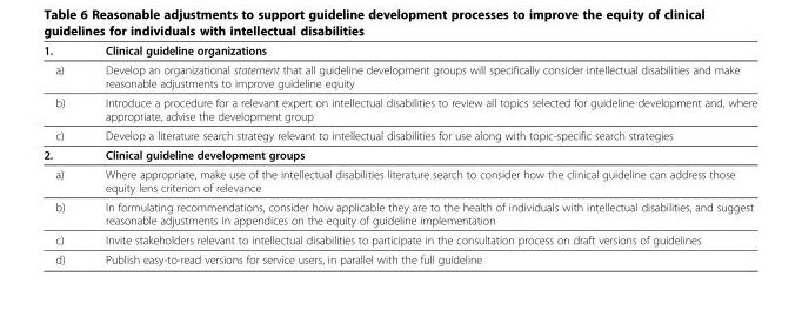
<table><tbody><tr><td>1.</td><td>Clinical guideline organizations</td></tr><tr><td>a)</td><td>Develop an organizational statement that all guideline development groups will specifically consider intellectual disabilities and make reasonable adjustments to improve guideline equity</td></tr><tr><td>b)</td><td>Introduce a procedure for a relevant expert on intellectual disabilities to review all topics selected for guideline development and, where appropriate, advise the development group</td></tr><tr><td>c)</td><td>Develop a literature search strategy relevant to intellectual disabilities for use along with topic-specific search strategies</td></tr><tr><td>2.</td><td>Clinical guideline development groups</td></tr><tr><td>a)</td><td>Where appropriate, make use of the intellectual disabilities literature search to consider how the clinical guideline can address those equity lens criterion of relevance</td></tr><tr><td>b)</td><td>In formulating recommendations, consider how applicable they are to the health of individuals with intellectual disabilities, and suggest reasonable adjustments in appendices on the equity of guideline implementation</td></tr><tr><td>c)</td><td>Invite stakeholders relevant to intellectual disabilities to participate in the consultation process on draft versions of guidelines</td></tr><tr><td>d)</td><td>Publish easy-to-read versions for service users, in parallel with the full guideline</td></tr></tbody></table>